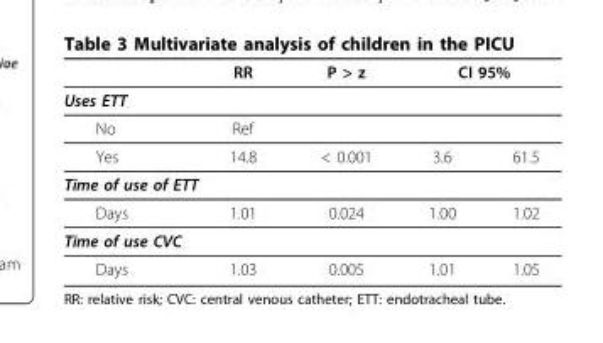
<table><thead><tr><td rowspan="2">Uses ETT</td><td rowspan="2">RR</td><td rowspan="2">P &gt; z</td><td colspan="2">CI 95%</td></tr><tr><td></td><td></td></tr></thead><tbody><tr><td>No</td><td>Ref</td><td></td><td></td><td></td></tr><tr><td>Yes</td><td>14.8</td><td>&lt; 0.001</td><td>3.6</td><td>61.5</td></tr><tr><td colspan="5">Time of use of ETT</td></tr><tr><td>Days</td><td>1.01</td><td>0.024</td><td>1.00</td><td>1.02</td></tr><tr><td colspan="5">Time of use CVC</td></tr><tr><td>Days</td><td>1.03</td><td>0.005</td><td>1.01</td><td>1.05</td></tr></tbody></table>